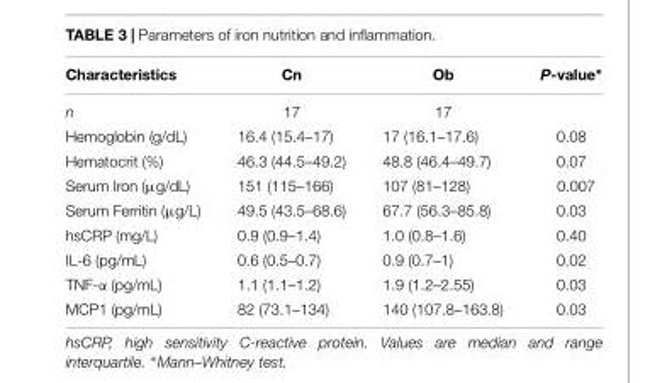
<table><thead><tr><td>Characteristics</td><td>Cn</td><td>Ob</td><td>P-value∗</td></tr></thead><tbody><tr><td>n</td><td>17</td><td>17</td><td></td></tr><tr><td>Hemoglobin (g/dL)</td><td>16.4 (15.4–17)</td><td>17 (16.1–17.6)</td><td>0.08</td></tr><tr><td>Hematocrit (%)</td><td>46.3 (44.5–49.2)</td><td>48.8 (46.4–49.7)</td><td>0.07</td></tr><tr><td>Serum Iron (µg/dL)</td><td>151 (115–166)</td><td>107 (81–128)</td><td>0.007</td></tr><tr><td>Serum Ferritin (µg/L)</td><td>49.5 (43.5–68.6)</td><td>67.7 (56.3–85.8)</td><td>0.03</td></tr><tr><td>hsCRP (mg/L)</td><td>0.9 (0.9–1.4)</td><td>1.0 (0.8–1.6)</td><td>0.40</td></tr><tr><td>IL-6 (pg/mL)</td><td>0.6 (0.5–0.7)</td><td>0.9 (0.7–1)</td><td>0.02</td></tr><tr><td>TNF-α (pg/mL)</td><td>1.1 (1.1–1.2)</td><td>1.9 (1.2–2.55)</td><td>0.03</td></tr><tr><td>MCP1 (pg/mL)</td><td>82 (73.1–134)</td><td>140 (107.8–163.8)</td><td>0.03</td></tr></tbody></table>